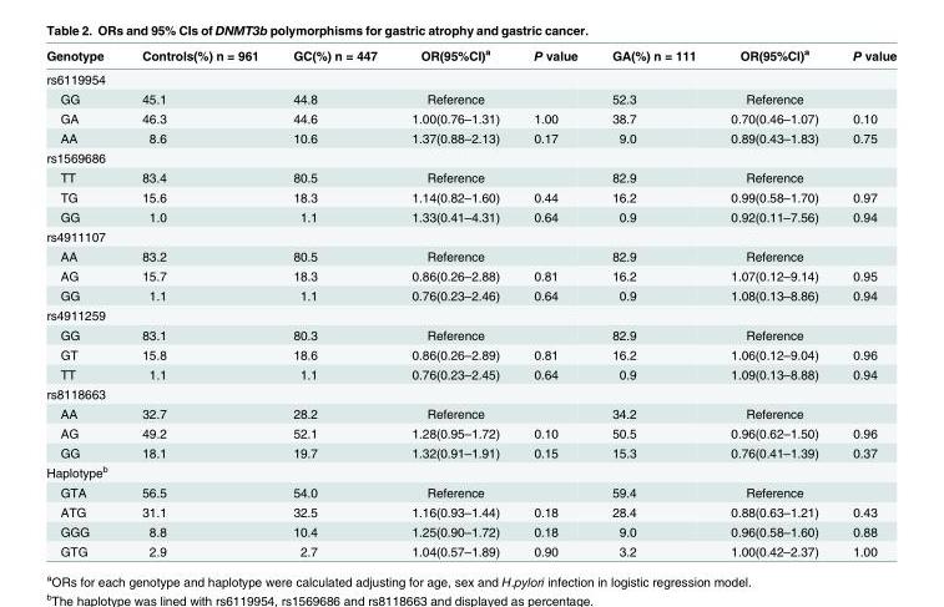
<table><thead><tr><td>Genotype</td><td>Controls(%) n = 961</td><td>GC(%) n = 447</td><td>OR(95%CI)<sup>a</sup></td><td>P value</td><td>GA(%) n = 111</td><td>OR(95%CI)<sup>a</sup></td><td>P value</td></tr></thead><tbody><tr><td colspan="8">rs6119954</td></tr><tr><td>GG</td><td>45.1</td><td>44.8</td><td>Reference</td><td></td><td>52.3</td><td>Reference</td><td></td></tr><tr><td>GA</td><td>46.3</td><td>44.6</td><td>1.00(0.76–1.31)</td><td>1.00</td><td>38.7</td><td>0.70(0.46–1.07)</td><td>0.10</td></tr><tr><td>AA</td><td>8.6</td><td>10.6</td><td>1.37(0.88–2.13)</td><td>0.17</td><td>9.0</td><td>0.89(0.43–1.83)</td><td>0.75</td></tr><tr><td colspan="8">rs1569686</td></tr><tr><td>TT</td><td>83.4</td><td>80.5</td><td>Reference</td><td></td><td>82.9</td><td>Reference</td><td></td></tr><tr><td>TG</td><td>15.6</td><td>18.3</td><td>1.14(0.82–1.60)</td><td>0.44</td><td>16.2</td><td>0.99(0.58–1.70)</td><td>0.97</td></tr><tr><td>GG</td><td>1.0</td><td>1.1</td><td>1.33(0.41–4.31)</td><td>0.64</td><td>0.9</td><td>0.92(0.11–7.56)</td><td>0.94</td></tr><tr><td colspan="8">rs4911107</td></tr><tr><td>AA</td><td>83.2</td><td>80.5</td><td>Reference</td><td></td><td>82.9</td><td>Reference</td><td></td></tr><tr><td>AG</td><td>15.7</td><td>18.3</td><td>0.86(0.26–2.88)</td><td>0.81</td><td>16.2</td><td>1.07(0.12–9.14)</td><td>0.95</td></tr><tr><td>GG</td><td>1.1</td><td>1.1</td><td>0.76(0.23–2.46)</td><td>0.64</td><td>0.9</td><td>1.08(0.13–8.86)</td><td>0.94</td></tr><tr><td colspan="8">rs4911259</td></tr><tr><td>GG</td><td>83.1</td><td>80.3</td><td>Reference</td><td></td><td>82.9</td><td>Reference</td><td></td></tr><tr><td>GT</td><td>15.8</td><td>18.6</td><td>0.86(0.26–2.89)</td><td>0.81</td><td>16.2</td><td>1.06(0.12–9.04)</td><td>0.96</td></tr><tr><td>TT</td><td>1.1</td><td>1.1</td><td>0.76(0.23–2.45)</td><td>0.64</td><td>0.9</td><td>1.09(0.13–8.88)</td><td>0.94</td></tr><tr><td colspan="8">rs8118663</td></tr><tr><td>AA</td><td>32.7</td><td>28.2</td><td>Reference</td><td></td><td>34.2</td><td>Reference</td><td></td></tr><tr><td>AG</td><td>49.2</td><td>52.1</td><td>1.28(0.95–1.72)</td><td>0.10</td><td>50.5</td><td>0.96(0.62–1.50)</td><td>0.96</td></tr><tr><td>GG</td><td>18.1</td><td>19.7</td><td>1.32(0.91–1.91)</td><td>0.15</td><td>15.3</td><td>0.76(0.41–1.39)</td><td>0.37</td></tr><tr><td colspan="8">Haplotype<sup>b</sup></td></tr><tr><td>GTA</td><td>56.5</td><td>54.0</td><td>Reference</td><td></td><td>59.4</td><td>Reference</td><td></td></tr><tr><td>ATG</td><td>31.1</td><td>32.5</td><td>1.16(0.93–1.44)</td><td>0.18</td><td>28.4</td><td>0.88(0.63–1.21)</td><td>0.43</td></tr><tr><td>GGG</td><td>8.8</td><td>10.4</td><td>1.25(0.90–1.72)</td><td>0.18</td><td>9.0</td><td>0.96(0.58–1.60)</td><td>0.88</td></tr><tr><td>GTG</td><td>2.9</td><td>2.7</td><td>1.04(0.57–1.89)</td><td>0.90</td><td>3.2</td><td>1.00(0.42–2.37)</td><td>1.00</td></tr></tbody></table>